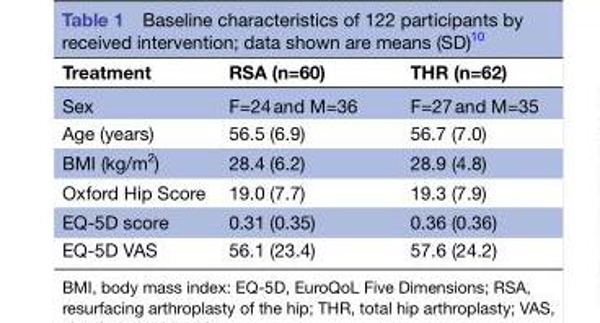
<table><thead><tr><td>Treatment</td><td>RSA (n=60)</td><td>THR (n=62)</td></tr></thead><tbody><tr><td>Sex</td><td>F=24 and M=36</td><td>F=27 and M=35</td></tr><tr><td>Age (years)</td><td>56.5 (6.9)</td><td>56.7 (7.0)</td></tr><tr><td>BMI (kg/m<sup>2</sup>)</td><td>28.4 (6.2)</td><td>28.9 (4.8)</td></tr><tr><td>Oxford Hip Score</td><td>19.0 (7.7)</td><td>19.3 (7.9)</td></tr><tr><td>EQ-5D score</td><td>0.31 (0.35)</td><td>0.36 (0.36)</td></tr><tr><td>EQ-5D VAS</td><td>56.1 (23.4)</td><td>57.6 (24.2)</td></tr></tbody></table>